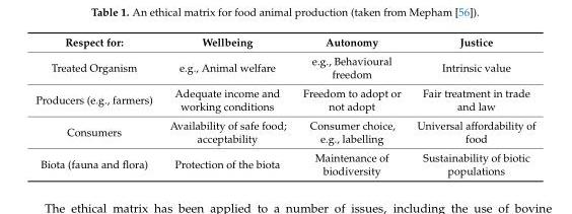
<table><thead><tr><td>Respect for:</td><td>Wellbeing</td><td>Autonomy</td><td>Justice</td></tr></thead><tbody><tr><td>Treated Organism</td><td>e.g., Animal welfare</td><td>e.g., Behavioural freedom</td><td>Intrinsic value</td></tr><tr><td>Producers (e.g., farmers)</td><td>Adequate income and working conditions</td><td>Freedom to adopt or not adopt</td><td>Fair treatment in trade and law</td></tr><tr><td>Consumers</td><td>Availability of safe food; acceptability</td><td>Consumer choice, e.g., labelling</td><td>Universal affordability of food</td></tr><tr><td>Biota (fauna and flora)</td><td>Protection of the biota</td><td>Maintenance of biodiversity</td><td>Sustainability of biotic populations</td></tr></tbody></table>